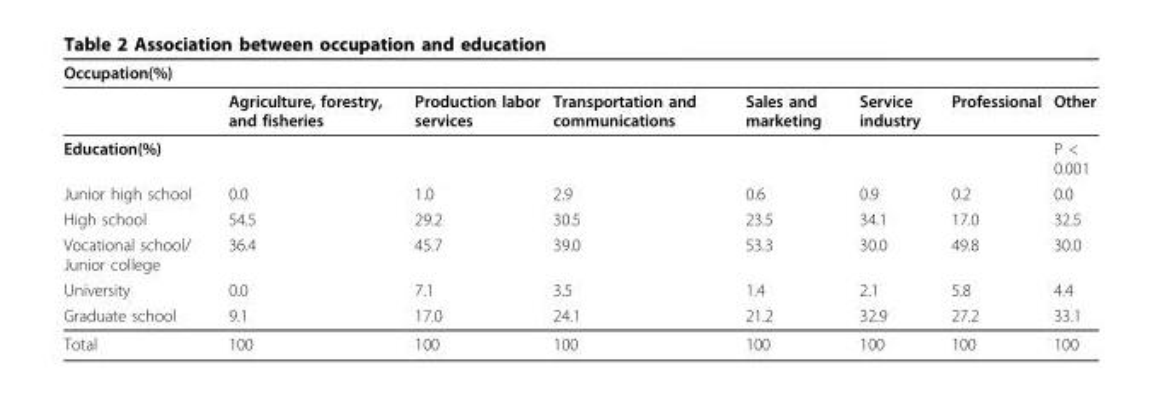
<table><thead><tr><td colspan="8">Occupation(%)</td></tr><tr><td></td><td>Agriculture, forestry, and fisheries</td><td>Production labor services</td><td>Transportation and communications</td><td>Sales and marketing</td><td>Service industry</td><td>Professional</td><td>Other</td></tr></thead><tbody><tr><td>Education(%)</td><td></td><td></td><td></td><td></td><td></td><td></td><td>P &lt; 0.001</td></tr><tr><td>Junior high school</td><td>0.0</td><td>1.0</td><td>2.9</td><td>0.6</td><td>0.9</td><td>0.2</td><td>0.0</td></tr><tr><td>High school</td><td>54.5</td><td>29.2</td><td>30.5</td><td>23.5</td><td>34.1</td><td>17.0</td><td>32.5</td></tr><tr><td>Vocational school/ Junior college</td><td>36.4</td><td>45.7</td><td>39.0</td><td>53.3</td><td>30.0</td><td>49.8</td><td>30.0</td></tr><tr><td>University</td><td>0.0</td><td>7.1</td><td>3.5</td><td>1.4</td><td>2.1</td><td>5.8</td><td>4.4</td></tr><tr><td>Graduate school</td><td>9.1</td><td>17.0</td><td>24.1</td><td>21.2</td><td>32.9</td><td>27.2</td><td>33.1</td></tr><tr><td>Total</td><td>100</td><td>100</td><td>100</td><td>100</td><td>100</td><td>100</td><td>100</td></tr></tbody></table>